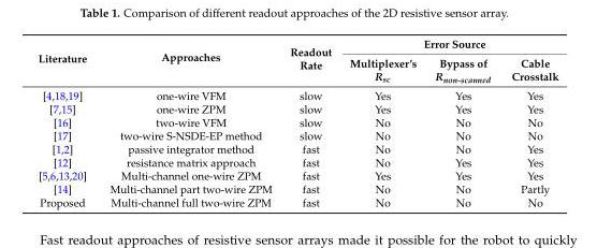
<table><thead><tr><td rowspan="2">Literature</td><td rowspan="2">Approaches</td><td rowspan="2">Readout Rate</td><td colspan="3">Error Source</td></tr><tr><td>Multiplexer’s R<sub>sc</sub></td><td>Bypass of R<sub>non-scanned</sub></td><td>Cable Crosstalk</td></tr></thead><tbody><tr><td>[4,18,19]</td><td>one-wire VFM</td><td>slow</td><td>Yes</td><td>Yes</td><td>Yes</td></tr><tr><td>[7,15]</td><td>one-wire ZPM</td><td>slow</td><td>Yes</td><td>Yes</td><td>Yes</td></tr><tr><td>[16]</td><td>two-wire VFM</td><td>slow</td><td>No</td><td>No</td><td>No</td></tr><tr><td>[17]</td><td>two-wire S-NSDE-EP method</td><td>slow</td><td>No</td><td>No</td><td>No</td></tr><tr><td>[1,2]</td><td>passive integrator method</td><td>fast</td><td>No</td><td>No</td><td>Yes</td></tr><tr><td>[12]</td><td>resistance matrix approach</td><td>fast</td><td>No</td><td>Yes</td><td>Yes</td></tr><tr><td>[5,6,13,20]</td><td>Multi-channel one-wire ZPM</td><td>fast</td><td>Yes</td><td>Yes</td><td>Yes</td></tr><tr><td>[14]</td><td>Multi-channel part two-wire ZPM</td><td>fast</td><td>No</td><td>No</td><td>Partly</td></tr><tr><td>Proposed</td><td>Multi-channel full two-wire ZPM</td><td>fast</td><td>No</td><td>No</td><td>No</td></tr></tbody></table>